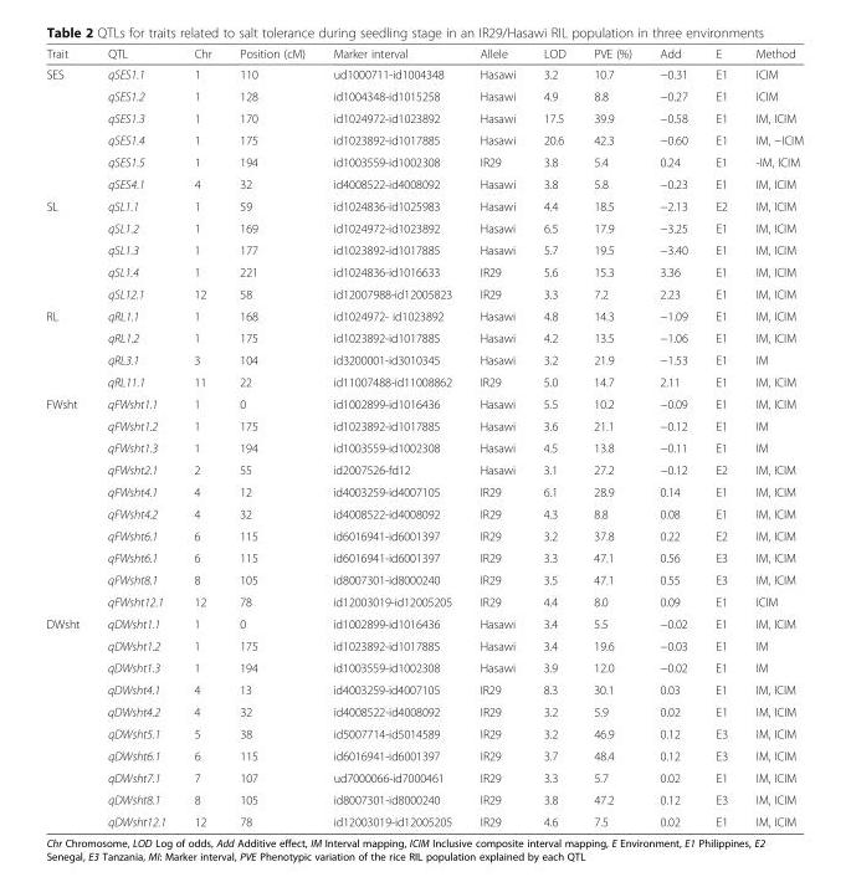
<table><thead><tr><td>Trait</td><td>QTL</td><td>Chr</td><td>Position (cM)</td><td>Marker interval</td><td>Allele</td><td>LOD</td><td>PVE (%)</td><td>Add</td><td>E</td><td>Method</td></tr></thead><tbody><tr><td rowspan="6">SES</td><td>qSES1.1</td><td>1</td><td>110</td><td>ud1000711-id1004348</td><td>Hasawi</td><td>3.2</td><td>10.7</td><td>−0.31</td><td>E1</td><td>ICIM</td></tr><tr><td>qSES1.2</td><td>1</td><td>128</td><td>id1004348-id1015258</td><td>Hasawi</td><td>4.9</td><td>8.8</td><td>−0.27</td><td>E1</td><td>ICIM</td></tr><tr><td>qSES1.3</td><td>1</td><td>170</td><td>id1024972-id1023892</td><td>Hasawi</td><td>17.5</td><td>39.9</td><td>−0.58</td><td>E1</td><td>IM, ICIM</td></tr><tr><td>qSES1.4</td><td>1</td><td>175</td><td>id1023892-id1017885</td><td>Hasawi</td><td>20.6</td><td>42.3</td><td>−0.60</td><td>E1</td><td>IM, −ICIM</td></tr><tr><td>qSES1.5</td><td>1</td><td>194</td><td>id1003559-id1002308</td><td>IR29</td><td>3.8</td><td>5.4</td><td>0.24</td><td>E1</td><td>-IM, ICIM</td></tr><tr><td>qSES4.1</td><td>4</td><td>32</td><td>id4008522-id4008092</td><td>Hasawi</td><td>3.8</td><td>5.8</td><td>−0.23</td><td>E1</td><td>IM, ICIM</td></tr><tr><td rowspan="5">SL</td><td>qSL1.1</td><td>1</td><td>59</td><td>id1024836-id1025983</td><td>Hasawi</td><td>4.4</td><td>18.5</td><td>−2.13</td><td>E2</td><td>IM, ICIM</td></tr><tr><td>qSL1.2</td><td>1</td><td>169</td><td>id1024972-id1023892</td><td>Hasawi</td><td>6.5</td><td>17.9</td><td>−3.25</td><td>E1</td><td>IM, ICIM</td></tr><tr><td>qSL1.3</td><td>1</td><td>177</td><td>id1023892-id1017885</td><td>Hasawi</td><td>5.7</td><td>19.5</td><td>−3.40</td><td>E1</td><td>IM, ICIM</td></tr><tr><td>qSL1.4</td><td>1</td><td>221</td><td>id1024836-id1016633</td><td>IR29</td><td>5.6</td><td>15.3</td><td>3.36</td><td>E1</td><td>IM, ICIM</td></tr><tr><td>qSL12.1</td><td>12</td><td>58</td><td>id12007988-id12005823</td><td>IR29</td><td>3.3</td><td>7.2</td><td>2.23</td><td>E1</td><td>IM, ICIM</td></tr><tr><td rowspan="4">RL</td><td>qRL1.1</td><td>1</td><td>168</td><td>id1024972- id1023892</td><td>Hasawi</td><td>4.8</td><td>14.3</td><td>−1.09</td><td>E1</td><td>IM, ICIM</td></tr><tr><td>qRL1.2</td><td>1</td><td>175</td><td>id1023892-id1017885</td><td>Hasawi</td><td>4.2</td><td>13.5</td><td>−1.06</td><td>E1</td><td>IM, ICIM</td></tr><tr><td>qRL3.1</td><td>3</td><td>104</td><td>id3200001-id3010345</td><td>Hasawi</td><td>3.2</td><td>21.9</td><td>−1.53</td><td>E1</td><td>IM</td></tr><tr><td>qRL11.1</td><td>11</td><td>22</td><td>id11007488-id11008862</td><td>IR29</td><td>5.0</td><td>14.7</td><td>2.11</td><td>E1</td><td>IM, ICIM</td></tr><tr><td rowspan="10">FWsht</td><td>qFWsht1.1</td><td>1</td><td>0</td><td>id1002899-id1016436</td><td>Hasawi</td><td>5.5</td><td>10.2</td><td>−0.09</td><td>E1</td><td>IM, ICIM</td></tr><tr><td>qFWsht1.2</td><td>1</td><td>175</td><td>id1023892-id1017885</td><td>Hasawi</td><td>3.6</td><td>21.1</td><td>−0.12</td><td>E1</td><td>IM</td></tr><tr><td>qFWsht1.3</td><td>1</td><td>194</td><td>id1003559-id1002308</td><td>Hasawi</td><td>4.5</td><td>13.8</td><td>−0.11</td><td>E1</td><td>IM</td></tr><tr><td>qFWsht2.1</td><td>2</td><td>55</td><td>id2007526-fd12</td><td>Hasawi</td><td>3.1</td><td>27.2</td><td>−0.12</td><td>E2</td><td>IM, ICIM</td></tr><tr><td>qFWsht4.1</td><td>4</td><td>12</td><td>id4003259-id4007105</td><td>IR29</td><td>6.1</td><td>28.9</td><td>0.14</td><td>E1</td><td>IM, ICIM</td></tr><tr><td>qFWsht4.2</td><td>4</td><td>32</td><td>id4008522-id4008092</td><td>IR29</td><td>4.3</td><td>8.8</td><td>0.08</td><td>E1</td><td>IM, ICIM</td></tr><tr><td>qFWsht6.1</td><td>6</td><td>115</td><td>id6016941-id6001397</td><td>IR29</td><td>3.2</td><td>37.8</td><td>0.22</td><td>E2</td><td>IM, ICIM</td></tr><tr><td>qFWsht6.1</td><td>6</td><td>115</td><td>id6016941-id6001397</td><td>IR29</td><td>3.3</td><td>47.1</td><td>0.56</td><td>E3</td><td>IM, ICIM</td></tr><tr><td>qFWsht8.1</td><td>8</td><td>105</td><td>id8007301-id8000240</td><td>IR29</td><td>3.5</td><td>47.1</td><td>0.55</td><td>E3</td><td>IM, ICIM</td></tr><tr><td>qFWsht12.1</td><td>12</td><td>78</td><td>id12003019-id12005205</td><td>IR29</td><td>4.4</td><td>8.0</td><td>0.09</td><td>E1</td><td>ICIM</td></tr><tr><td rowspan="10">DWsht</td><td>qDWsht1.1</td><td>1</td><td>0</td><td>id1002899-id1016436</td><td>Hasawi</td><td>3.4</td><td>5.5</td><td>−0.02</td><td>E1</td><td>IM, ICIM</td></tr><tr><td>qDWsht1.2</td><td>1</td><td>175</td><td>id1023892-id1017885</td><td>Hasawi</td><td>3.4</td><td>19.6</td><td>−0.03</td><td>E1</td><td>IM</td></tr><tr><td>qDWsht1.3</td><td>1</td><td>194</td><td>id1003559-id1002308</td><td>Hasawi</td><td>3.9</td><td>12.0</td><td>−0.02</td><td>E1</td><td>IM</td></tr><tr><td>qDWsht4.1</td><td>4</td><td>13</td><td>id4003259-id4007105</td><td>IR29</td><td>8.3</td><td>30.1</td><td>0.03</td><td>E1</td><td>IM, ICIM</td></tr><tr><td>qDWsht4.2</td><td>4</td><td>32</td><td>id4008522-id4008092</td><td>IR29</td><td>3.2</td><td>5.9</td><td>0.02</td><td>E1</td><td>IM, ICIM</td></tr><tr><td>qDWsht5.1</td><td>5</td><td>38</td><td>id5007714-id5014589</td><td>IR29</td><td>3.2</td><td>46.9</td><td>0.12</td><td>E3</td><td>IM, ICIM</td></tr><tr><td>qDWsht6.1</td><td>6</td><td>115</td><td>id6016941-id6001397</td><td>IR29</td><td>3.7</td><td>48.4</td><td>0.12</td><td>E3</td><td>IM, ICIM</td></tr><tr><td>qDWsht7.1</td><td>7</td><td>107</td><td>ud7000066-id7000461</td><td>IR29</td><td>3.3</td><td>5.7</td><td>0.02</td><td>E1</td><td>IM, ICIM</td></tr><tr><td>qDWsht8.1</td><td>8</td><td>105</td><td>id8007301-id8000240</td><td>IR29</td><td>3.8</td><td>47.2</td><td>0.12</td><td>E3</td><td>IM, ICIM</td></tr><tr><td>qDWsht12.1</td><td>12</td><td>78</td><td>id12003019-id12005205</td><td>IR29</td><td>4.6</td><td>7.5</td><td>0.02</td><td>E1</td><td>IM, ICIM</td></tr></tbody></table>